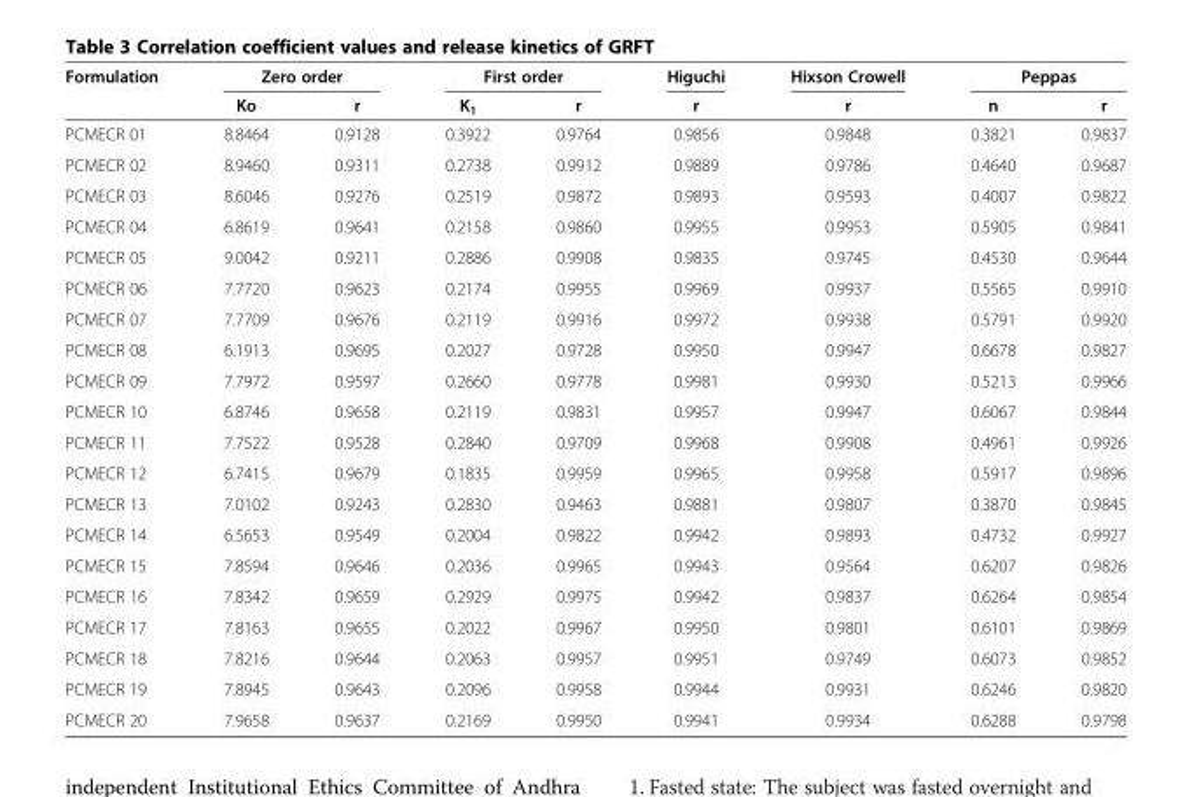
<table><thead><tr><td rowspan="2">Formulation</td><td colspan="2">Zero order</td><td colspan="2">First order</td><td rowspan="2">Higuchi r</td><td rowspan="2">Hixson Crowell r</td><td colspan="2">Peppas</td></tr><tr><td>Ko</td><td>r</td><td>K<sub>1</sub></td><td>r</td><td>n</td><td>r</td></tr></thead><tbody><tr><td>PCMECR 01</td><td>8.8464</td><td>0.9128</td><td>0.3922</td><td>0.9764</td><td>0.9856</td><td>0.9848</td><td>0.3821</td><td>0.9837</td></tr><tr><td>PCMECR 02</td><td>8.9460</td><td>0.9311</td><td>0.2738</td><td>0.9912</td><td>0.9889</td><td>0.9786</td><td>0.4640</td><td>0.9687</td></tr><tr><td>PCMECR 03</td><td>8.6046</td><td>0.9276</td><td>0.2519</td><td>0.9872</td><td>0.9893</td><td>0.9593</td><td>0.4007</td><td>0.9822</td></tr><tr><td>PCMECR 04</td><td>6.8619</td><td>0.9641</td><td>0.2158</td><td>0.9860</td><td>0.9955</td><td>0.9953</td><td>0.5905</td><td>0.9841</td></tr><tr><td>PCMECR 05</td><td>9.0042</td><td>0.9211</td><td>0.2886</td><td>0.9908</td><td>0.9835</td><td>0.9745</td><td>0.4530</td><td>0.9644</td></tr><tr><td>PCMECR 06</td><td>7.7720</td><td>0.9623</td><td>0.2174</td><td>0.9955</td><td>0.9969</td><td>0.9937</td><td>0.5565</td><td>0.9910</td></tr><tr><td>PCMECR 07</td><td>7.7709</td><td>0.9676</td><td>0.2119</td><td>0.9916</td><td>0.9972</td><td>0.9938</td><td>0.5791</td><td>0.9920</td></tr><tr><td>PCMECR 08</td><td>6.1913</td><td>0.9695</td><td>0.2027</td><td>0.9728</td><td>0.9950</td><td>0.9947</td><td>0.6678</td><td>0.9827</td></tr><tr><td>PCMECR 09</td><td>7.7972</td><td>0.9597</td><td>0.2660</td><td>0.9778</td><td>0.9981</td><td>0.9930</td><td>0.5213</td><td>0.9966</td></tr><tr><td>PCMECR 10</td><td>6.8746</td><td>0.9658</td><td>0.2119</td><td>0.9831</td><td>0.9957</td><td>0.9947</td><td>0.6067</td><td>0.9844</td></tr><tr><td>PCMECR 11</td><td>7.7522</td><td>0.9528</td><td>0.2840</td><td>0.9709</td><td>0.9968</td><td>0.9908</td><td>0.4961</td><td>0.9926</td></tr><tr><td>PCMECR 12</td><td>6.7415</td><td>0.9679</td><td>0.1835</td><td>0.9959</td><td>0.9965</td><td>0.9958</td><td>0.5917</td><td>0.9896</td></tr><tr><td>PCMECR 13</td><td>7.0102</td><td>0.9243</td><td>0.2830</td><td>0.9463</td><td>0.9881</td><td>0.9807</td><td>0.3870</td><td>0.9845</td></tr><tr><td>PCMECR 14</td><td>6.5653</td><td>0.9549</td><td>0.2004</td><td>0.9822</td><td>0.9942</td><td>0.9893</td><td>0.4732</td><td>0.9927</td></tr><tr><td>PCMECR 15</td><td>7.8594</td><td>0.9646</td><td>0.2036</td><td>0.9965</td><td>0.9943</td><td>0.9564</td><td>0.6207</td><td>0.9826</td></tr><tr><td>PCMECR 16</td><td>7.8342</td><td>0.9659</td><td>0.2929</td><td>0.9975</td><td>0.9942</td><td>0.9837</td><td>0.6264</td><td>0.9854</td></tr><tr><td>PCMECR 17</td><td>7.8163</td><td>0.9655</td><td>0.2022</td><td>0.9967</td><td>0.9950</td><td>0.9801</td><td>0.6101</td><td>0.9869</td></tr><tr><td>PCMECR 18</td><td>7.8216</td><td>0.9644</td><td>0.2063</td><td>0.9957</td><td>0.9951</td><td>0.9749</td><td>0.6073</td><td>0.9852</td></tr><tr><td>PCMECR 19</td><td>7.8945</td><td>0.9643</td><td>0.2096</td><td>0.9958</td><td>0.9944</td><td>0.9931</td><td>0.6246</td><td>0.9820</td></tr><tr><td>PCMECR 20</td><td>7.9658</td><td>0.9637</td><td>0.2169</td><td>0.9950</td><td>0.9941</td><td>0.9934</td><td>0.6288</td><td>0.9798</td></tr></tbody></table>